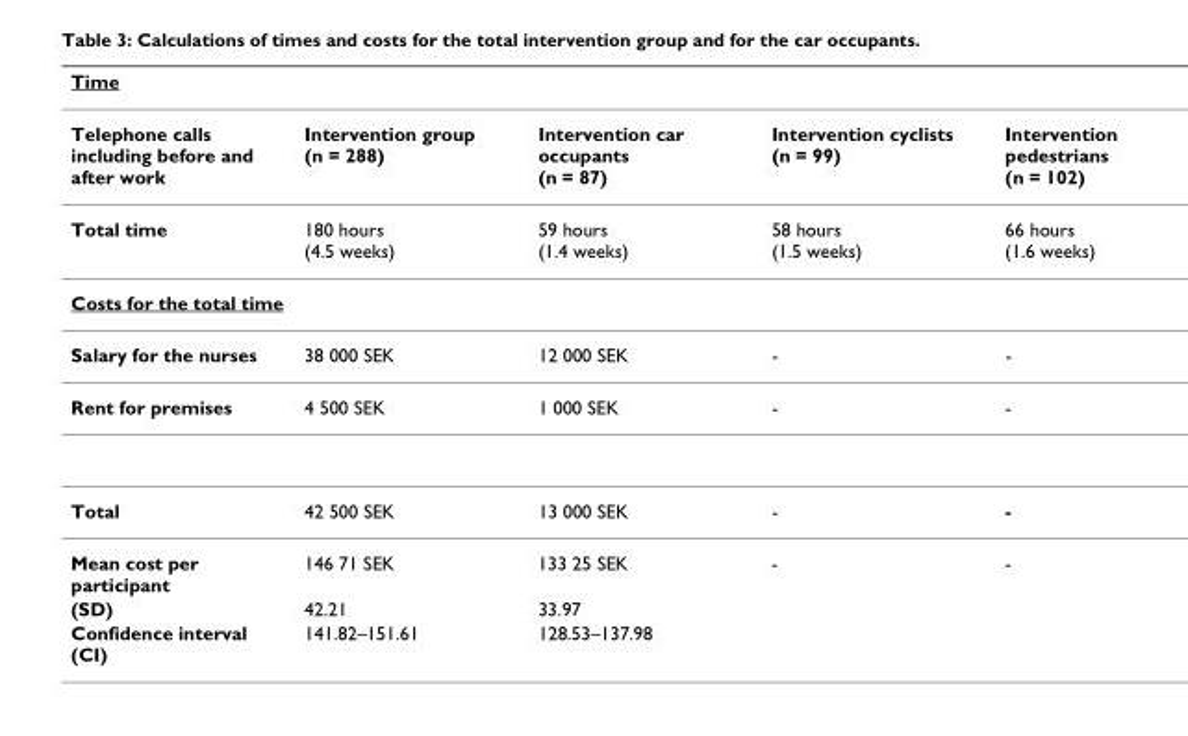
<table><thead><tr><td>Time</td><td></td><td></td><td></td><td></td></tr></thead><tbody><tr><td>Telephone calls including before and after work</td><td>Intervention group (n = 288)</td><td>Intervention car occupants (n = 87)</td><td>Intervention cyclists (n = 99)</td><td>Intervention pedestrians (n = 102)</td></tr><tr><td>Total time</td><td>180 hours (4.5 weeks)</td><td>59 hours (1.4 weeks)</td><td>58 hours (1.5 weeks)</td><td>66 hours (1.6 weeks)</td></tr><tr><td colspan="5">Costs for the total time</td></tr><tr><td>Salary for the nurses</td><td>38 000 SEK</td><td>12 000 SEK</td><td>-</td><td>-</td></tr><tr><td>Rent for premises</td><td>4 500 SEK</td><td>1 000 SEK</td><td>-</td><td>-</td></tr><tr><td>Total</td><td>42 500 SEK</td><td>13 000 SEK</td><td>-</td><td>-</td></tr><tr><td>Mean cost per participant</td><td>146 71 SEK</td><td>133 25 SEK</td><td>-</td><td>-</td></tr><tr><td>(SD)</td><td>42.21</td><td>33.97</td><td></td><td></td></tr><tr><td>Confidence interval (CI)</td><td>141.82–151.61</td><td>128.53–137.98</td><td></td><td></td></tr></tbody></table>